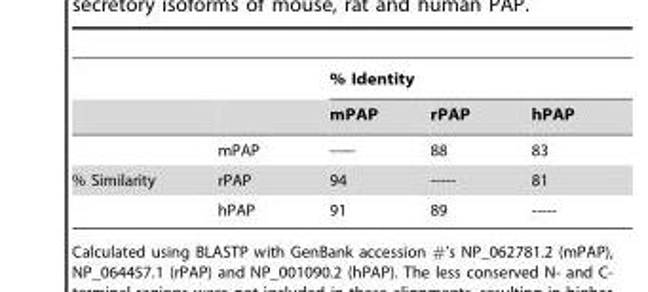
<table><thead><tr><td rowspan="2"></td><td rowspan="2"></td><td colspan="3">% Identity</td></tr><tr><td>mPAP</td><td>rPAP</td><td>hPAP</td></tr></thead><tbody><tr><td></td><td>mPAP</td><td>-----</td><td>88</td><td>83</td></tr><tr><td rowspan="2">% Similarity</td><td>rPAP</td><td>94</td><td>-----</td><td>81</td></tr><tr><td>hPAP</td><td>91</td><td>89</td><td>-----</td></tr></tbody></table>